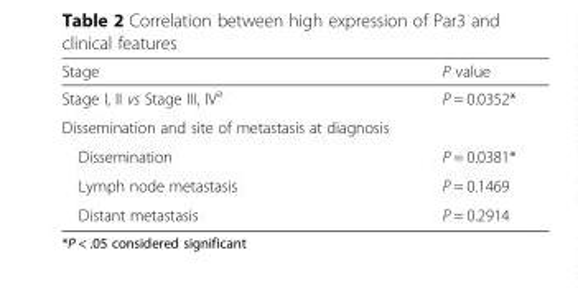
<table><thead><tr><td>Stage</td><td>P value</td></tr></thead><tbody><tr><td>Stage I, II vs Stage III, IV<sup>a</sup></td><td>P = 0.0352*</td></tr><tr><td colspan="2">Dissemination and site of metastasis at diagnosis</td></tr><tr><td>Dissemination</td><td>P = 0.0381*</td></tr><tr><td>Lymph node metastasis</td><td>P = 0.1469</td></tr><tr><td>Distant metastasis</td><td>P = 0.2914</td></tr></tbody></table>